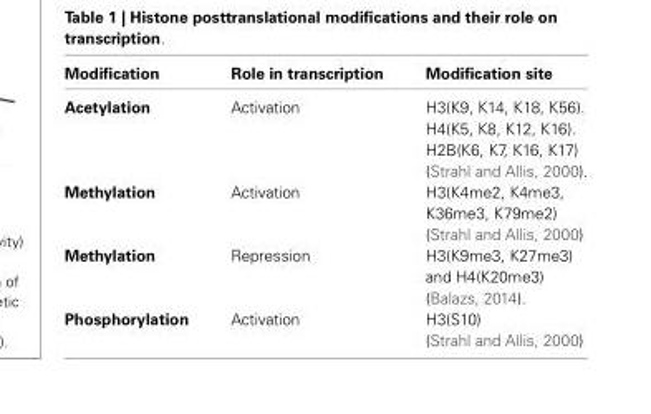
<table><thead><tr><td>Modification</td><td>Role in transcription</td><td>Modification site</td></tr></thead><tbody><tr><td rowspan="4">Acetylation</td><td>Activation</td><td>H3(K9, K14, K18, K56).</td></tr><tr><td></td><td>H4(K5, K8, K12, K16).</td></tr><tr><td></td><td>H2B(K6, K7, K16, K17)</td></tr><tr><td></td><td>(Strahl and Allis, 2000).</td></tr><tr><td rowspan="2">Methylation</td><td>Activation</td><td>H3(K4me2, K4me3, K36me3, K79me2)</td></tr><tr><td></td><td>(Strahl and Allis, 2000)</td></tr><tr><td rowspan="2">Methylation</td><td>Repression</td><td>H3(K9me3, K27me3) and H4(K20me3)</td></tr><tr><td></td><td>(Balazs, 2014).</td></tr><tr><td rowspan="2">Phosphorylation</td><td>Activation</td><td>H3(S10)</td></tr><tr><td></td><td>(Strahl and Allis, 2000)</td></tr></tbody></table>